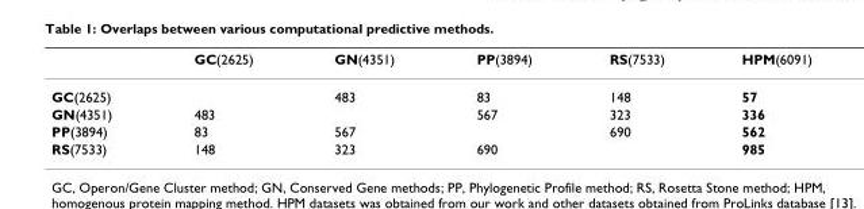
<table><thead><tr><td></td><td>GC(2625)</td><td>GN(4351)</td><td>PP(3894)</td><td>RS(7533)</td><td>HPM(6091)</td></tr></thead><tbody><tr><td>GC(2625)</td><td></td><td>483</td><td>83</td><td>148</td><td>57</td></tr><tr><td>GN(4351)</td><td>483</td><td></td><td>567</td><td>323</td><td>336</td></tr><tr><td>PP(3894)</td><td>83</td><td>567</td><td></td><td>690</td><td>562</td></tr><tr><td>RS(7533)</td><td>148</td><td>323</td><td>690</td><td></td><td>985</td></tr></tbody></table>